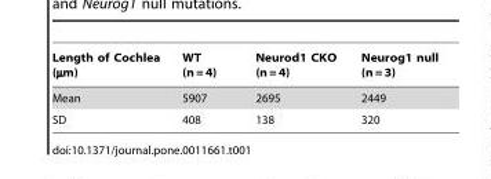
<table><thead><tr><td>Length of Cochlea (µm)</td><td>WT (n = 4)</td><td>Neurod1 CKO (n = 4)</td><td>Neurog1 null (n = 3)</td></tr></thead><tbody><tr><td>Mean</td><td>5907</td><td>2695</td><td>2449</td></tr><tr><td>SD</td><td>408</td><td>138</td><td>320</td></tr></tbody></table>